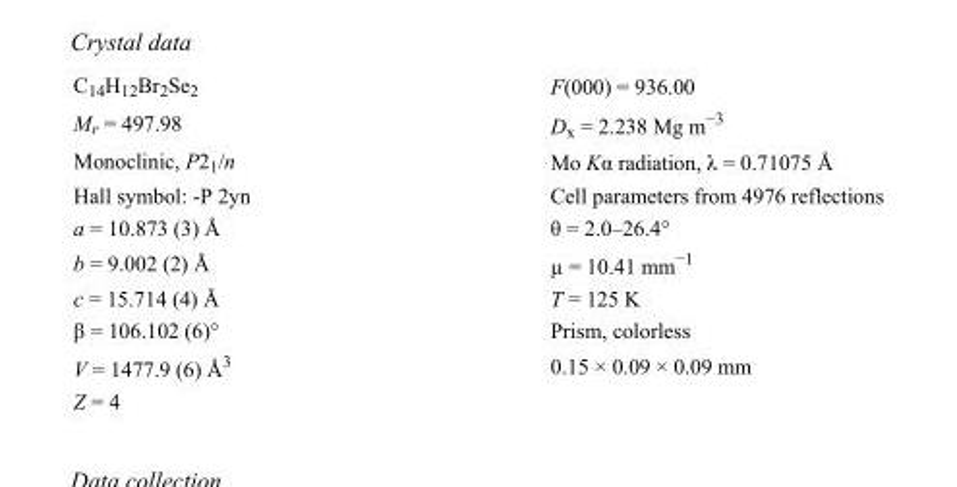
<table><tbody><tr><td>C<sub>14</sub>H<sub>12</sub>Br<sub>2</sub>Se<sub>2</sub></td><td>F(000) = 936.00</td></tr><tr><td>M<sub>r</sub> = 497.98</td><td>D<sub>x</sub> = 2.238 Mg m<sup>−3</sup></td></tr><tr><td>Monoclinic, P2<sub>1</sub>/n</td><td>Mo Kα radiation, λ = 0.71075 Å</td></tr><tr><td>Hall symbol: -P 2yn</td><td>Cell parameters from 4976 reflections</td></tr><tr><td>a = 10.873 (3) Å</td><td>θ = 2.0–26.4°</td></tr><tr><td>b = 9.002 (2) Å</td><td>µ = 10.41 mm<sup>−1</sup></td></tr><tr><td>c = 15.714 (4) Å</td><td>T = 125 K</td></tr><tr><td>β = 106.102 (6)°</td><td>Prism, colorless</td></tr><tr><td>V = 1477.9 (6) Å<sup>3</sup></td><td>0.15 × 0.09 × 0.09 mm</td></tr><tr><td>Z = 4</td><td></td></tr></tbody></table>